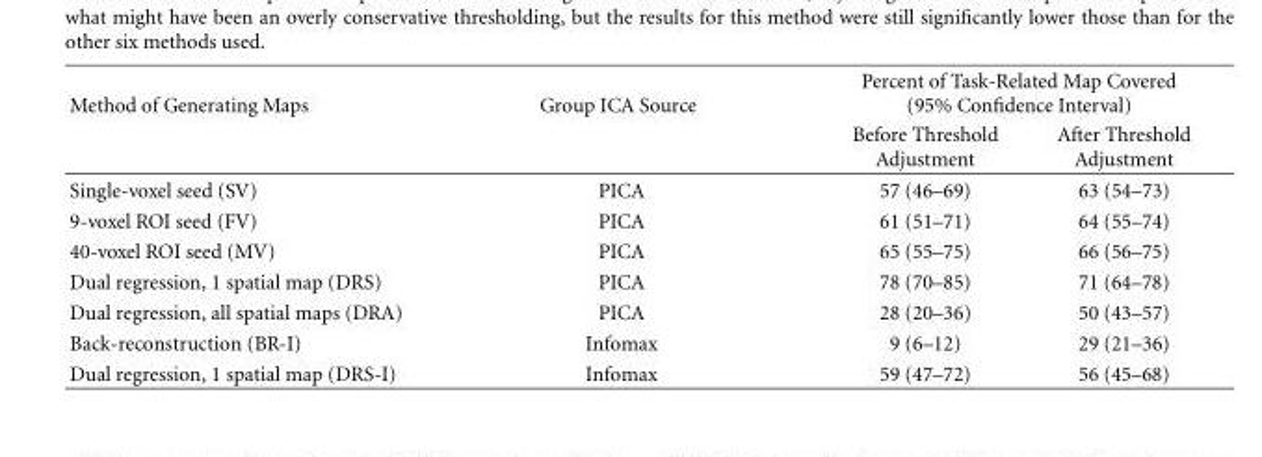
<table><thead><tr><td rowspan="2">Method of Generating Maps</td><td rowspan="2">Group ICA Source</td><td colspan="2">Percent of Task-Related Map Covered (95% Confidence Interval)</td></tr><tr><td>Before Threshold Adjustment</td><td>After Threshold Adjustment</td></tr></thead><tbody><tr><td>Single-voxel seed (SV)</td><td>PICA</td><td>57 (46–69)</td><td>63 (54–73)</td></tr><tr><td>9-voxel ROI seed (FV)</td><td>PICA</td><td>61 (51–71)</td><td>64 (55–74)</td></tr><tr><td>40-voxel ROI seed (MV)</td><td>PICA</td><td>65 (55–75)</td><td>66 (56–75)</td></tr><tr><td>Dual regression, 1 spatial map (DRS)</td><td>PICA</td><td>78 (70–85)</td><td>71 (64–78)</td></tr><tr><td>Dual regression, all spatial maps (DRA)</td><td>PICA</td><td>28 (20–36)</td><td>50 (43–57)</td></tr><tr><td>Back-reconstruction (BR-I)</td><td>Infomax</td><td>9 (6–12)</td><td>29 (21–36)</td></tr><tr><td>Dual regression, 1 spatial map (DRS-I)</td><td>Infomax</td><td>59 (47–72)</td><td>56 (45–68)</td></tr></tbody></table>